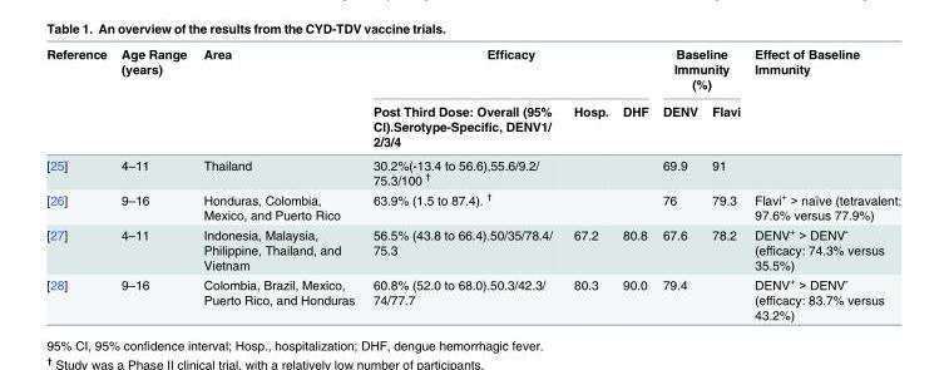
<table><thead><tr><td rowspan="2">Reference</td><td rowspan="2">Age Range (years)</td><td rowspan="2">Area</td><td colspan="3">Efficacy</td><td colspan="2">Baseline Immunity (%)</td><td rowspan="2">Effect of Baseline Immunity</td></tr><tr><td>Post Third Dose: Overall (95% CI).Serotype-Specific, DENV1/ 2/3/4</td><td>Hosp.</td><td>DHF</td><td>DENV</td><td>Flavi</td></tr></thead><tbody><tr><td>[25]</td><td>4–11</td><td>Thailand</td><td>30.2%(-13.4 to 56.6),55.6/9.2/ 75.3/100 <sup>†</sup></td><td></td><td></td><td>69.9</td><td>91</td><td></td></tr><tr><td>[26]</td><td>9–16</td><td>Honduras, Colombia, Mexico, and Puerto Rico</td><td>63.9% (1.5 to 87.4). <sup>†</sup></td><td></td><td></td><td>76</td><td>79.3</td><td>Flavi<sup>+</sup> &gt; naïve (tetravalent: 97.6% versus 77.9%)</td></tr><tr><td>[27]</td><td>4–11</td><td>Indonesia, Malaysia, Philippine, Thailand, and Vietnam</td><td>56.5% (43.8 to 66.4).50/35/78.4/ 75.3</td><td>67.2</td><td>80.8</td><td>67.6</td><td>78.2</td><td>DENV<sup>+</sup> &gt; DENV<sup>-</sup> (efficacy: 74.3% versus 35.5%)</td></tr><tr><td>[28]</td><td>9–16</td><td>Colombia, Brazil, Mexico, Puerto Rico, and Honduras</td><td>60.8% (52.0 to 68.0).50.3/42.3/ 74/77.7</td><td>80.3</td><td>90.0</td><td>79.4</td><td></td><td>DENV<sup>+</sup> &gt; DENV<sup>-</sup> (efficacy: 83.7% versus 43.2%)</td></tr></tbody></table>